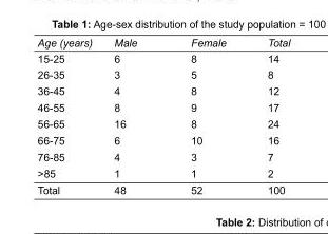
<table><tbody><tr><td>Age (years)</td><td>Male</td><td>Female</td><td>Total</td></tr><tr><td>15-25</td><td>6</td><td>8</td><td>14</td></tr><tr><td>26-35</td><td>3</td><td>5</td><td>8</td></tr><tr><td>36-45</td><td>4</td><td>8</td><td>12</td></tr><tr><td>46-55</td><td>8</td><td>9</td><td>17</td></tr><tr><td>56-65</td><td>16</td><td>8</td><td>24</td></tr><tr><td>66-75</td><td>6</td><td>10</td><td>16</td></tr><tr><td>76-85</td><td>4</td><td>3</td><td>7</td></tr><tr><td>&gt;85</td><td>1</td><td>1</td><td>2</td></tr><tr><td>Total</td><td>48</td><td>52</td><td>100</td></tr></tbody></table>